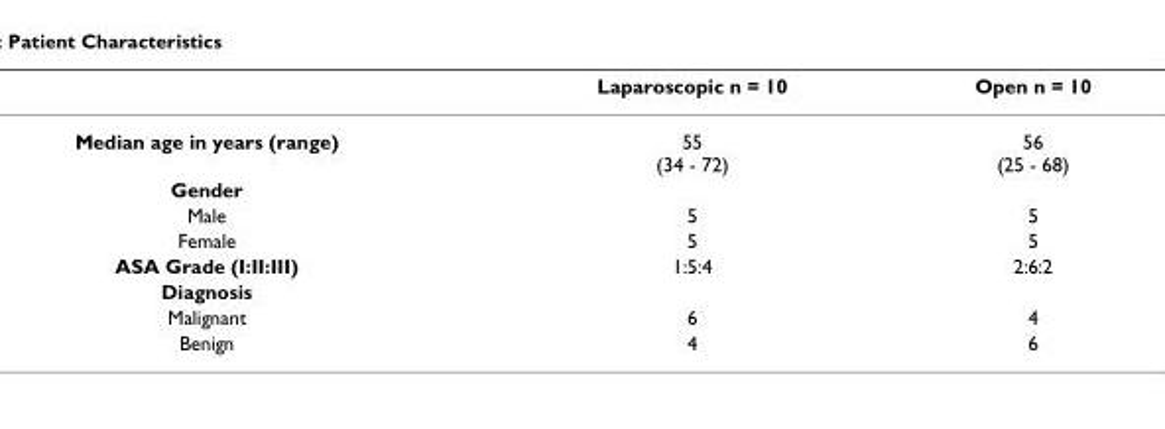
<table><thead><tr><td></td><td>Laparoscopic n = 10</td><td>Open n = 10</td></tr></thead><tbody><tr><td>Median age in years (range)</td><td>55 (34 - 72)</td><td>56 (25 - 68)</td></tr><tr><td colspan="3">Gender</td></tr><tr><td>Male</td><td>5</td><td>5</td></tr><tr><td>Female</td><td>5</td><td>5</td></tr><tr><td>ASA Grade (I:II:III)</td><td>1:5:4</td><td>2:6:2</td></tr><tr><td colspan="3">Diagnosis</td></tr><tr><td>Malignant</td><td>6</td><td>4</td></tr><tr><td>Benign</td><td>4</td><td>6</td></tr></tbody></table>